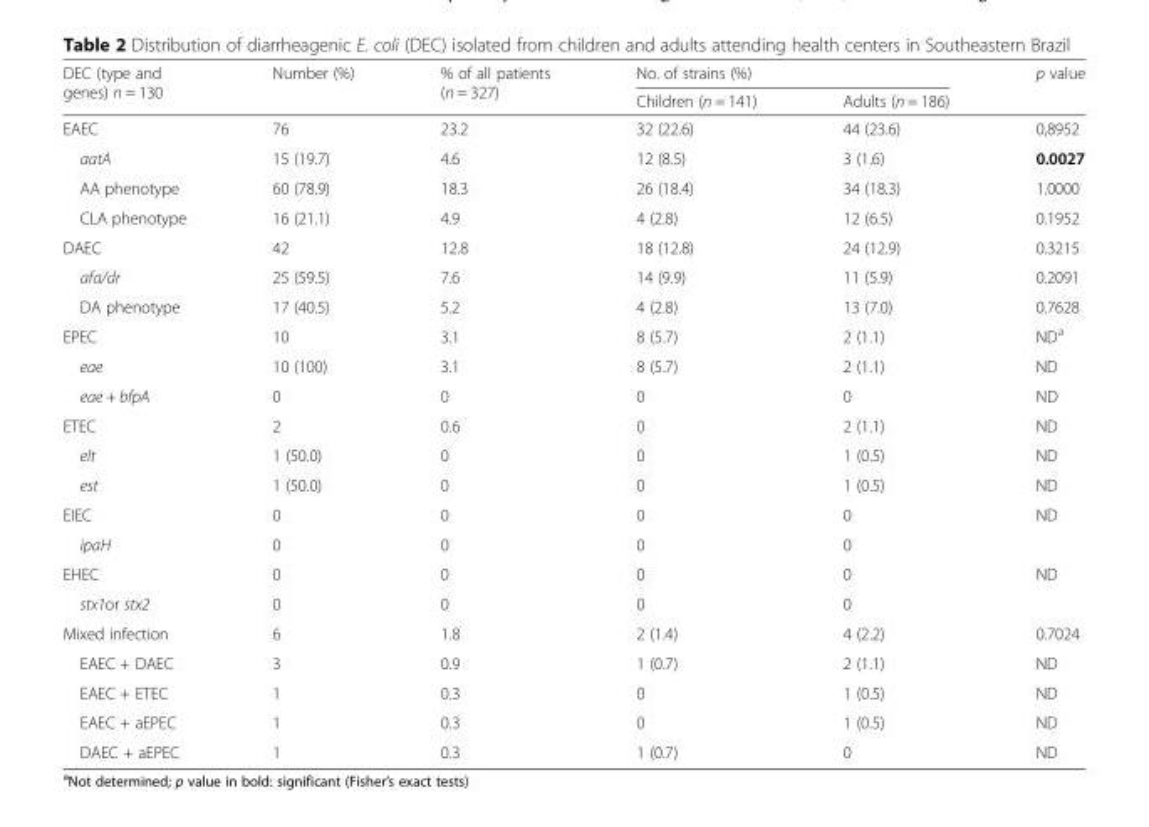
<table><thead><tr><td rowspan="2">DEC (type and genes) n = 130</td><td rowspan="2">Number (%)</td><td rowspan="2">% of all patients (n = 327)</td><td colspan="2">No. of strains (%)</td><td rowspan="2">p value</td></tr><tr><td>Children (n = 141)</td><td>Adults (n = 186)</td></tr></thead><tbody><tr><td>EAEC</td><td>76</td><td>23.2</td><td>32 (22.6)</td><td>44 (23.6)</td><td>0,8952</td></tr><tr><td>aatA</td><td>15 (19.7)</td><td>4.6</td><td>12 (8.5)</td><td>3 (1.6)</td><td>0.0027</td></tr><tr><td>AA phenotype</td><td>60 (78.9)</td><td>18.3</td><td>26 (18.4)</td><td>34 (18.3)</td><td>1.0000</td></tr><tr><td>CLA phenotype</td><td>16 (21.1)</td><td>4.9</td><td>4 (2.8)</td><td>12 (6.5)</td><td>0.1952</td></tr><tr><td>DAEC</td><td>42</td><td>12.8</td><td>18 (12.8)</td><td>24 (12.9)</td><td>0.3215</td></tr><tr><td>afa/dr</td><td>25 (59.5)</td><td>7.6</td><td>14 (9.9)</td><td>11 (5.9)</td><td>0.2091</td></tr><tr><td>DA phenotype</td><td>17 (40.5)</td><td>5.2</td><td>4 (2.8)</td><td>13 (7.0)</td><td>0.7628</td></tr><tr><td>EPEC</td><td>10</td><td>3.1</td><td>8 (5.7)</td><td>2 (1.1)</td><td>ND<sup>a</sup></td></tr><tr><td>eae</td><td>10 (100)</td><td>3.1</td><td>8 (5.7)</td><td>2 (1.1)</td><td>ND</td></tr><tr><td>eae + bfpA</td><td>0</td><td>0</td><td>0</td><td>0</td><td>ND</td></tr><tr><td>ETEC</td><td>2</td><td>0.6</td><td>0</td><td>2 (1.1)</td><td>ND</td></tr><tr><td>elt</td><td>1 (50.0)</td><td>0</td><td>0</td><td>1 (0.5)</td><td>ND</td></tr><tr><td>est</td><td>1 (50.0)</td><td>0</td><td>0</td><td>1 (0.5)</td><td>ND</td></tr><tr><td>EIEC</td><td>0</td><td>0</td><td>0</td><td>0</td><td>ND</td></tr><tr><td>ipaH</td><td>0</td><td>0</td><td>0</td><td>0</td><td></td></tr><tr><td>EHEC</td><td>0</td><td>0</td><td>0</td><td>0</td><td>ND</td></tr><tr><td>stx1or stx2</td><td>0</td><td>0</td><td>0</td><td>0</td><td></td></tr><tr><td>Mixed infection</td><td>6</td><td>1.8</td><td>2 (1.4)</td><td>4 (2.2)</td><td>0.7024</td></tr><tr><td>EAEC + DAEC</td><td>3</td><td>0.9</td><td>1 (0.7)</td><td>2 (1.1)</td><td>ND</td></tr><tr><td>EAEC + ETEC</td><td>1</td><td>0.3</td><td>0</td><td>1 (0.5)</td><td>ND</td></tr><tr><td>EAEC + aEPEC</td><td>1</td><td>0.3</td><td>0</td><td>1 (0.5)</td><td>ND</td></tr><tr><td>DAEC + aEPEC</td><td>1</td><td>0.3</td><td>1 (0.7)</td><td>0</td><td>ND</td></tr></tbody></table>